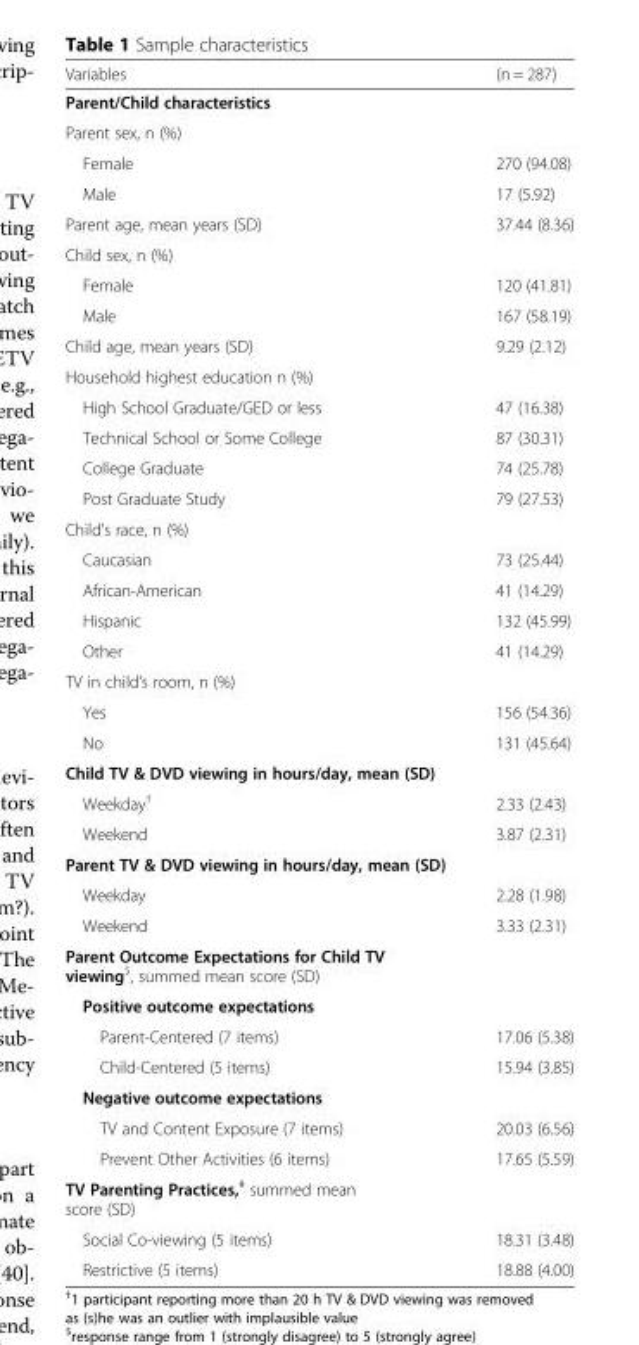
<table><thead><tr><td>Variables</td><td>(n = 287)</td></tr></thead><tbody><tr><td colspan="2">Parent/Child characteristics</td></tr><tr><td colspan="2">Parent sex, n (%)</td></tr><tr><td>Female</td><td>270 (94.08)</td></tr><tr><td>Male</td><td>17 (5.92)</td></tr><tr><td>Parent age, mean years (SD)</td><td>37.44 (8.36)</td></tr><tr><td colspan="2">Child sex, n (%)</td></tr><tr><td>Female</td><td>120 (41.81)</td></tr><tr><td>Male</td><td>167 (58.19)</td></tr><tr><td>Child age, mean years (SD)</td><td>9.29 (2.12)</td></tr><tr><td colspan="2">Household highest education n (%)</td></tr><tr><td>High School Graduate/GED or less</td><td>47 (16.38)</td></tr><tr><td>Technical School or Some College</td><td>87 (30.31)</td></tr><tr><td>College Graduate</td><td>74 (25.78)</td></tr><tr><td>Post Graduate Study</td><td>79 (27.53)</td></tr><tr><td colspan="2">Child’s race, n (%)</td></tr><tr><td>Caucasian</td><td>73 (25.44)</td></tr><tr><td>African-American</td><td>41 (14.29)</td></tr><tr><td>Hispanic</td><td>132 (45.99)</td></tr><tr><td>Other</td><td>41 (14.29)</td></tr><tr><td colspan="2">TV in child’s room, n (%)</td></tr><tr><td>Yes</td><td>156 (54.36)</td></tr><tr><td>No</td><td>131 (45.64)</td></tr><tr><td colspan="2">Child TV &amp; DVD viewing in hours/day, mean (SD)</td></tr><tr><td>Weekday<sup>†</sup></td><td>2.33 (2.43)</td></tr><tr><td>Weekend</td><td>3.87 (2.31)</td></tr><tr><td colspan="2">Parent TV &amp; DVD viewing in hours/day, mean (SD)</td></tr><tr><td>Weekday</td><td>2.28 (1.98)</td></tr><tr><td>Weekend</td><td>3.33 (2.31)</td></tr><tr><td colspan="2">Parent Outcome Expectations for Child TV viewing<sup>$</sup>, summed mean score (SD)</td></tr><tr><td colspan="2">Positive outcome expectations</td></tr><tr><td>Parent-Centered (7 items)</td><td>17.06 (5.38)</td></tr><tr><td>Child-Centered (5 items)</td><td>15.94 (3.85)</td></tr><tr><td colspan="2">Negative outcome expectations</td></tr><tr><td>TV and Content Exposure (7 items)</td><td>20.03 (6.56)</td></tr><tr><td>Prevent Other Activities (6 items)</td><td>17.65 (5.59)</td></tr><tr><td colspan="2">TV Parenting Practices,<sup>#</sup> summed mean score (SD)</td></tr><tr><td>Social Co-viewing (5 items)</td><td>18.31 (3.48)</td></tr><tr><td>Restrictive (5 items)</td><td>18.88 (4.00)</td></tr></tbody></table>